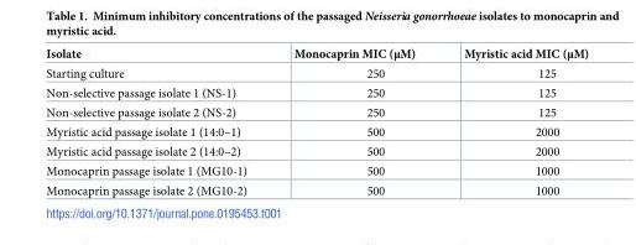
<table><thead><tr><td>Isolate</td><td>Monocaprin MIC (μM)</td><td>Myristic acid MIC (μM)</td></tr></thead><tbody><tr><td>Starting culture</td><td>250</td><td>125</td></tr><tr><td>Non-selective passage isolate 1 (NS-1)</td><td>250</td><td>125</td></tr><tr><td>Non-selective passage isolate 2 (NS-2)</td><td>250</td><td>125</td></tr><tr><td>Myristic acid passage isolate 1 (14:0–1)</td><td>500</td><td>2000</td></tr><tr><td>Myristic acid passage isolate 2 (14:0–2)</td><td>500</td><td>2000</td></tr><tr><td>Monocaprin passage isolate 1 (MG10-1)</td><td>500</td><td>1000</td></tr><tr><td>Monocaprin passage isolate 2 (MG10-2)</td><td>500</td><td>1000</td></tr></tbody></table>